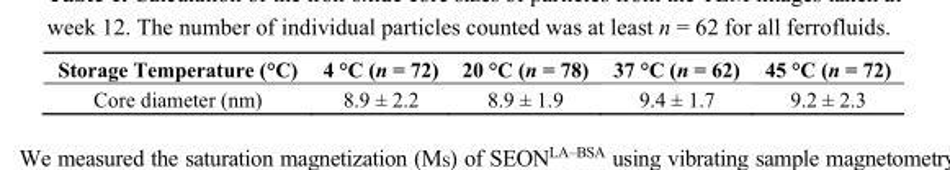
<table><thead><tr><td>Storage Temperature (°C)</td><td>4 °C (n = 72)</td><td>20 °C (n = 78)</td><td>37 °C (n = 62)</td><td>45 °C (n = 72)</td></tr></thead><tbody><tr><td>Core diameter (nm)</td><td>8.9 ± 2.2</td><td>8.9 ± 1.9</td><td>9.4 ± 1.7</td><td>9.2 ± 2.3</td></tr></tbody></table>